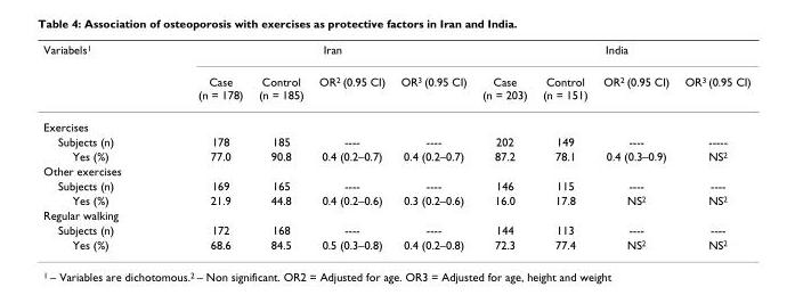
<table><thead><tr><td rowspan="2">Variabels<sup>1</sup></td><td colspan="4">Iran</td><td colspan="4">India</td></tr><tr><td>Case (n = 178)</td><td>Control (n = 185)</td><td>OR<sup>2</sup> (0.95 CI)</td><td>OR<sup>3</sup> (0.95 CI)</td><td>Case (n = 203)</td><td>Control (n = 151)</td><td>OR<sup>2</sup> (0.95 CI)</td><td>OR<sup>3</sup> (0.95 CI)</td></tr></thead><tbody><tr><td colspan="9">Exercises</td></tr><tr><td>Subjects (n)</td><td>178</td><td>185</td><td>----</td><td>----</td><td>202</td><td>149</td><td>----</td><td>-----</td></tr><tr><td>Yes (%)</td><td>77.0</td><td>90.8</td><td>0.4 (0.2–0.7)</td><td>0.4 (0.2–0.7)</td><td>87.2</td><td>78.1</td><td>0.4 (0.3–0.9)</td><td>NS<sup>2</sup></td></tr><tr><td colspan="9">Other exercises</td></tr><tr><td>Subjects (n)</td><td>169</td><td>165</td><td>----</td><td>----</td><td>146</td><td>115</td><td>----</td><td>----</td></tr><tr><td>Yes (%)</td><td>21.9</td><td>44.8</td><td>0.4 (0.2–0.6)</td><td>0.3 (0.2–0.6)</td><td>16.0</td><td>17.8</td><td>NS<sup>2</sup></td><td>NS<sup>2</sup></td></tr><tr><td colspan="9">Regular walking</td></tr><tr><td>Subjects (n)</td><td>172</td><td>168</td><td>----</td><td>----</td><td>144</td><td>113</td><td>----</td><td>----</td></tr><tr><td>Yes (%)</td><td>68.6</td><td>84.5</td><td>0.5 (0.3–0.8)</td><td>0.4 (0.2–0.8)</td><td>72.3</td><td>77.4</td><td>NS<sup>2</sup></td><td>NS<sup>2</sup></td></tr></tbody></table>